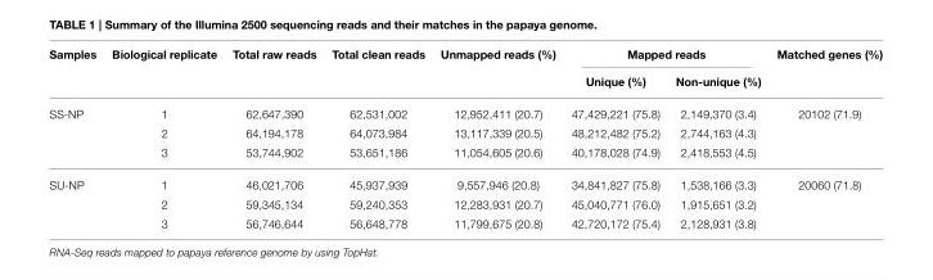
<table><thead><tr><td rowspan="2">Samples</td><td rowspan="2">Biological replicate</td><td rowspan="2">Total raw reads</td><td rowspan="2">Total clean reads</td><td rowspan="2">Unmapped reads (%)</td><td colspan="2">Mapped reads</td><td rowspan="2">Matched genes (%)</td></tr><tr><td>Unique (%)</td><td>Non-unique (%)</td></tr></thead><tbody><tr><td rowspan="3">SS-NP</td><td>1</td><td>62,647,390</td><td>62,531,002</td><td>12,952,411 (20.7)</td><td>47,429,221 (75.8)</td><td>2,149,370 (3.4)</td><td>20102 (71.9)</td></tr><tr><td>2</td><td>64,194,178</td><td>64,073,984</td><td>13,117,339 (20.5)</td><td>48,212,482 (75.2)</td><td>2,744,163 (4.3)</td><td></td></tr><tr><td>3</td><td>53,744,902</td><td>53,651,186</td><td>11,054,605 (20.6)</td><td>40,178,028 (74.9)</td><td>2,418,553 (4.5)</td><td></td></tr><tr><td rowspan="3">SU-NP</td><td>1</td><td>46,021,706</td><td>45,937,939</td><td>9,557,946 (20.8)</td><td>34,841,827 (75.8)</td><td>1,538,166 (3.3)</td><td>20060 (71.8)</td></tr><tr><td>2</td><td>59,345,134</td><td>59,240,353</td><td>12,283,931 (20.7)</td><td>45,040,771 (76.0)</td><td>1,915,651 (3.2)</td><td></td></tr><tr><td>3</td><td>56,746,644</td><td>56,648,778</td><td>11,799,675 (20.8)</td><td>42,720,172 (75.4)</td><td>2,128,931 (3.8)</td><td></td></tr></tbody></table>